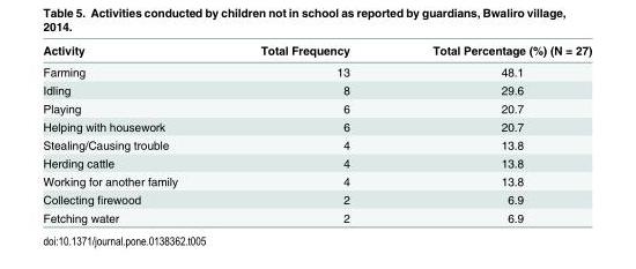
<table><thead><tr><td>Activity</td><td>Total Frequency</td><td>Total Percentage (%) (N = 27)</td></tr></thead><tbody><tr><td>Farming</td><td>13</td><td>48.1</td></tr><tr><td>Idling</td><td>8</td><td>29.6</td></tr><tr><td>Playing</td><td>6</td><td>20.7</td></tr><tr><td>Helping with housework</td><td>6</td><td>20.7</td></tr><tr><td>Stealing/Causing trouble</td><td>4</td><td>13.8</td></tr><tr><td>Herding cattle</td><td>4</td><td>13.8</td></tr><tr><td>Working for another family</td><td>4</td><td>13.8</td></tr><tr><td>Collecting firewood</td><td>2</td><td>6.9</td></tr><tr><td>Fetching water</td><td>2</td><td>6.9</td></tr></tbody></table>